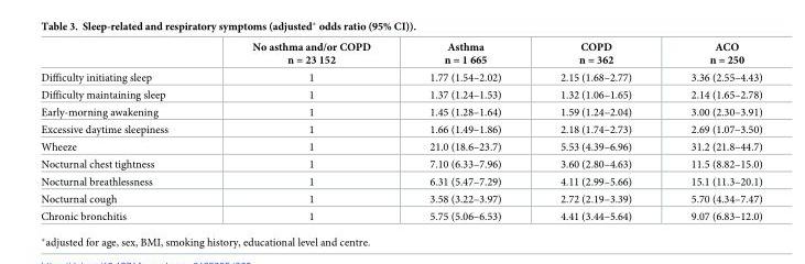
<table><thead><tr><td></td><td>No asthma and/or COPD n = 23 152</td><td>Asthma n = 1 665</td><td>COPD n = 362</td><td>ACO n = 250</td></tr></thead><tbody><tr><td>Difficulty initiating sleep</td><td>1</td><td>1.77 (1.54–2.02)</td><td>2.15 (1.68–2.77)</td><td>3.36 (2.55–4.43)</td></tr><tr><td>Difficulty maintaining sleep</td><td>1</td><td>1.37 (1.24–1.53)</td><td>1.32 (1.06–1.65)</td><td>2.14 (1.65–2.78)</td></tr><tr><td>Early-morning awakening</td><td>1</td><td>1.45 (1.28–1.64)</td><td>1.59 (1.24–2.04)</td><td>3.00 (2.30–3.91)</td></tr><tr><td>Excessive daytime sleepiness</td><td>1</td><td>1.66 (1.49–1.86)</td><td>2.18 (1.74–2.73)</td><td>2.69 (1.07–3.50)</td></tr><tr><td>Wheeze</td><td>1</td><td>21.0 (18.6–23.7)</td><td>5.53 (4.39–6.96)</td><td>31.2 (21.8–44.7)</td></tr><tr><td>Nocturnal chest tightness</td><td>1</td><td>7.10 (6.33–7.96)</td><td>3.60 (2.80–4.63)</td><td>11.5 (8.82–15.0)</td></tr><tr><td>Nocturnal breathlessness</td><td>1</td><td>6.31 (5.47–7.29)</td><td>4.11 (2.99–5.66)</td><td>15.1 (11.3–20.1)</td></tr><tr><td>Nocturnal cough</td><td>1</td><td>3.58 (3.22–3.97)</td><td>2.72 (2.19–3.39)</td><td>5.70 (4.34–7.47)</td></tr><tr><td>Chronic bronchitis</td><td>1</td><td>5.75 (5.06–6.53)</td><td>4.41 (3.44–5.64)</td><td>9.07 (6.83–12.0)</td></tr></tbody></table>